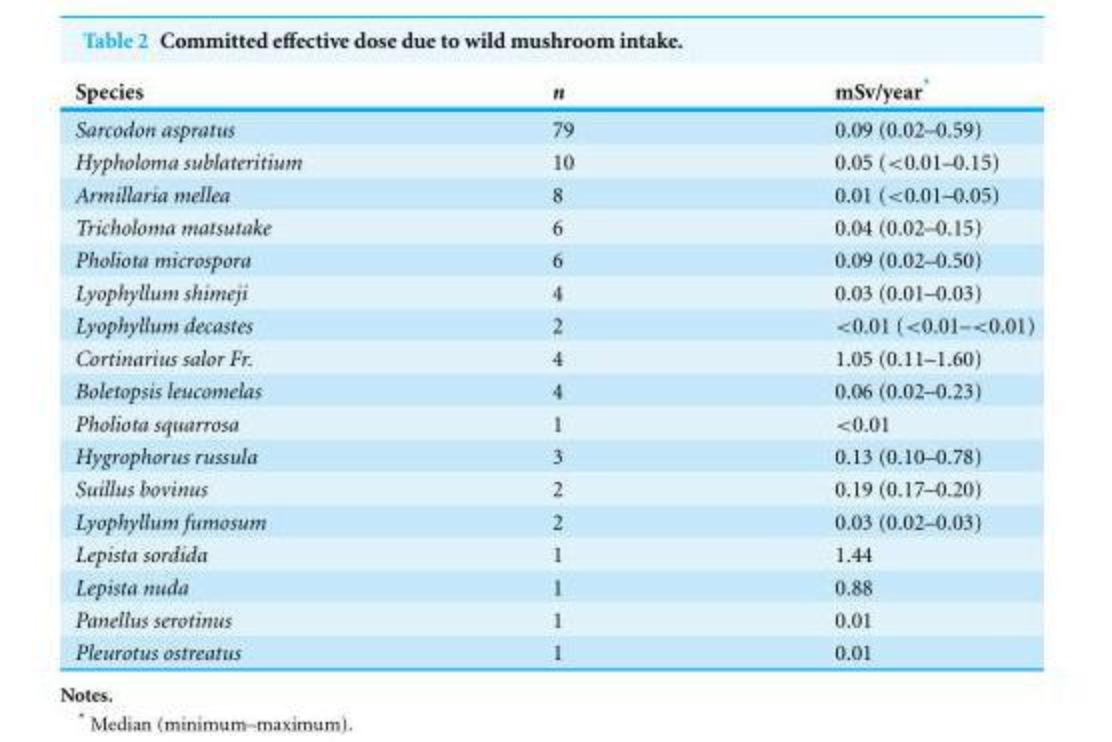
<table><thead><tr><td>Species</td><td>n</td><td>mSv/year*</td></tr></thead><tbody><tr><td>Sarcodon aspratus</td><td>79</td><td>0.09 (0.02–0.59)</td></tr><tr><td>Hypholoma sublateritium</td><td>10</td><td>0.05 (&lt;0.01–0.15)</td></tr><tr><td>Armillaria mellea</td><td>8</td><td>0.01 (&lt;0.01–0.05)</td></tr><tr><td>Tricholoma matsutake</td><td>6</td><td>0.04 (0.02–0.15)</td></tr><tr><td>Pholiota microspora</td><td>6</td><td>0.09 (0.02–0.50)</td></tr><tr><td>Lyophyllum shimeji</td><td>4</td><td>0.03 (0.01–0.03)</td></tr><tr><td>Lyophyllum decastes</td><td>2</td><td>&lt;0.01 (&lt;0.01–&lt;0.01)</td></tr><tr><td>Cortinarius salor Fr.</td><td>4</td><td>1.05 (0.11–1.60)</td></tr><tr><td>Boletopsis leucomelas</td><td>4</td><td>0.06 (0.02–0.23)</td></tr><tr><td>Pholiota squarrosa</td><td>1</td><td>&lt;0.01</td></tr><tr><td>Hygrophorus russula</td><td>3</td><td>0.13 (0.10–0.78)</td></tr><tr><td>Suillus bovinus</td><td>2</td><td>0.19 (0.17–0.20)</td></tr><tr><td>Lyophyllum fumosum</td><td>2</td><td>0.03 (0.02–0.03)</td></tr><tr><td>Lepista sordida</td><td>1</td><td>1.44</td></tr><tr><td>Lepista nuda</td><td>1</td><td>0.88</td></tr><tr><td>Panellus serotinus</td><td>1</td><td>0.01</td></tr><tr><td>Pleurotus ostreatus</td><td>1</td><td>0.01</td></tr></tbody></table>